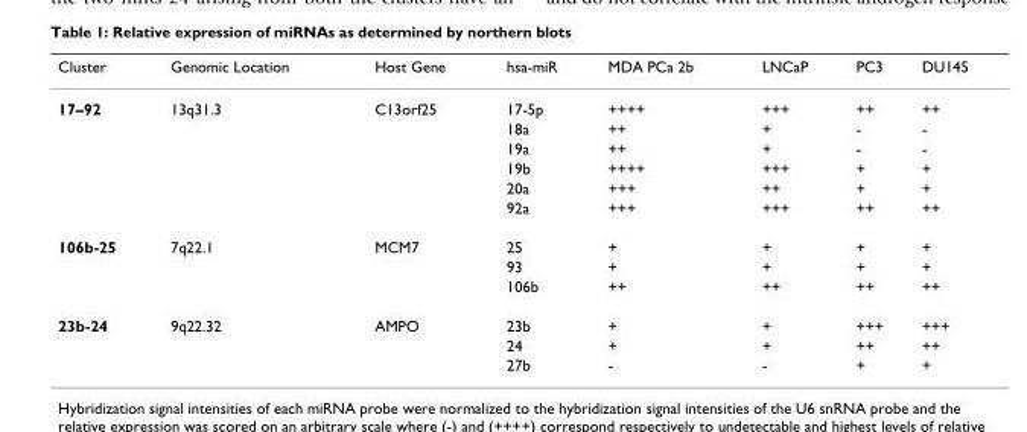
<table><thead><tr><td>Cluster</td><td>Genomic Location</td><td>Host Gene</td><td>hsa-miR</td><td>MDA PCa 2b</td><td>LNCaP</td><td>PC3</td><td>DU145</td></tr></thead><tbody><tr><td rowspan="6">17–92</td><td>13q31.3</td><td>C13orf25</td><td>17-5p</td><td>++++</td><td>+++</td><td>++</td><td>++</td></tr><tr><td></td><td></td><td>18a</td><td>++</td><td>+</td><td>-</td><td>-</td></tr><tr><td></td><td></td><td>19a</td><td>++</td><td>+</td><td>-</td><td>-</td></tr><tr><td></td><td></td><td>19b</td><td>++++</td><td>+++</td><td>+</td><td>+</td></tr><tr><td></td><td></td><td>20a</td><td>+++</td><td>++</td><td>+</td><td>+</td></tr><tr><td></td><td></td><td>92a</td><td>+++</td><td>+++</td><td>++</td><td>++</td></tr><tr><td rowspan="3">106b-25</td><td>7q22.1</td><td>MCM7</td><td>25</td><td>+</td><td>+</td><td>+</td><td>+</td></tr><tr><td></td><td></td><td>93</td><td>+</td><td>+</td><td>+</td><td>+</td></tr><tr><td></td><td></td><td>106b</td><td>++</td><td>++</td><td>++</td><td>++</td></tr><tr><td rowspan="3">23b-24</td><td>9q22.32</td><td>AMPO</td><td>23b</td><td>+</td><td>+</td><td>+++</td><td>+++</td></tr><tr><td></td><td></td><td>24</td><td>+</td><td>+</td><td>++</td><td>++</td></tr><tr><td></td><td></td><td>27b</td><td>-</td><td>-</td><td>+</td><td>+</td></tr></tbody></table>